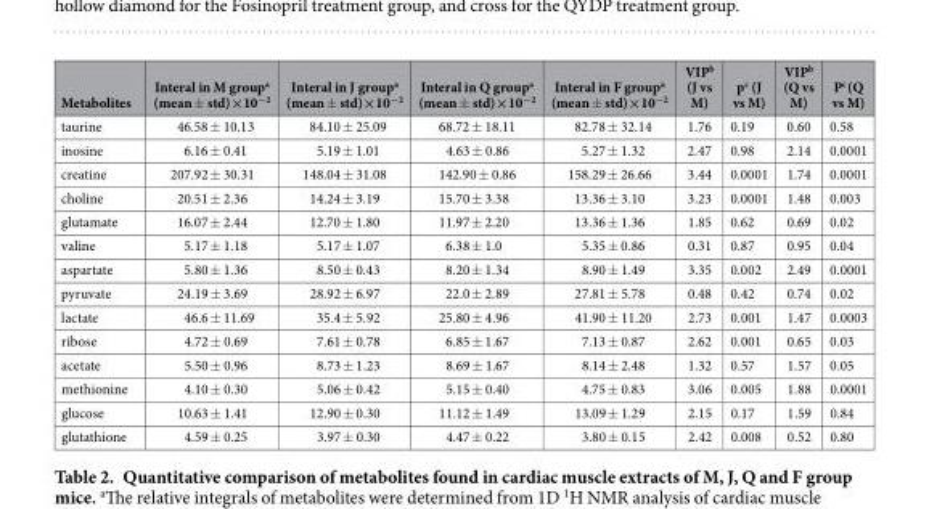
<table><thead><tr><td>Metabolites</td><td>Interal in M group<sup>a</sup> (mean ± std)×10<sup>−2</sup></td><td>Interal in J group<sup>a</sup> (mean ± std)×10<sup>−2</sup></td><td>Interal in Q group<sup>a</sup> (mean ± std)×10<sup>−2</sup></td><td>Interal in F group<sup>a</sup> (mean ± std)×10<sup>−2</sup></td><td>VIP<sup>b</sup> (J vs M)</td><td>p<sup>c</sup> (J vs M)</td><td>VIP<sup>b</sup> (Q vs M)</td><td>P<sup>c</sup> (Q vs M)</td></tr></thead><tbody><tr><td>taurine</td><td>46.58 ± 10.13</td><td>84.10 ± 25.09</td><td>68.72 ± 18.11</td><td>82.78 ± 32.14</td><td>1.76</td><td>0.19</td><td>0.60</td><td>0.58</td></tr><tr><td>inosine</td><td>6.16 ± 0.41</td><td>5.19 ± 1.01</td><td>4.63 ± 0.86</td><td>5.27 ± 1.32</td><td>2.47</td><td>0.98</td><td>2.14</td><td>0.0001</td></tr><tr><td>creatine</td><td>207.92 ± 30.31</td><td>148.04 ± 31.08</td><td>142.90 ± 0.86</td><td>158.29 ± 26.66</td><td>3.44</td><td>0.0001</td><td>1.74</td><td>0.0001</td></tr><tr><td>choline</td><td>20.51 ± 2.36</td><td>14.24 ± 3.19</td><td>15.70 ± 3.38</td><td>13.36 ± 3.10</td><td>3.23</td><td>0.0001</td><td>1.48</td><td>0.003</td></tr><tr><td>glutamate</td><td>16.07 ± 2.44</td><td>12.70 ± 1.80</td><td>11.97 ± 2.20</td><td>13.36 ± 1.36</td><td>1.85</td><td>0.62</td><td>0.69</td><td>0.02</td></tr><tr><td>valine</td><td>5.17 ± 1.18</td><td>5.17 ± 1.07</td><td>6.38 ± 1.0</td><td>5.35 ± 0.86</td><td>0.31</td><td>0.87</td><td>0.95</td><td>0.04</td></tr><tr><td>aspartate</td><td>5.80 ± 1.36</td><td>8.50 ± 0.43</td><td>8.20 ± 1.34</td><td>8.90 ± 1.49</td><td>3.35</td><td>0.002</td><td>2.49</td><td>0.0001</td></tr><tr><td>pyruvate</td><td>24.19 ± 3.69</td><td>28.92 ± 6.97</td><td>22.0 ± 2.89</td><td>27.81 ± 5.78</td><td>0.48</td><td>0.42</td><td>0.74</td><td>0.02</td></tr><tr><td>lactate</td><td>46.6 ± 11.69</td><td>35.4 ± 5.92</td><td>25.80 ± 4.96</td><td>41.90 ± 11.20</td><td>2.73</td><td>0.001</td><td>1.47</td><td>0.0003</td></tr><tr><td>ribose</td><td>4.72 ± 0.69</td><td>7.61 ± 0.78</td><td>6.85 ± 1.67</td><td>7.13 ± 0.87</td><td>2.62</td><td>0.001</td><td>0.65</td><td>0.03</td></tr><tr><td>acetate</td><td>5.50 ± 0.96</td><td>8.73 ± 1.23</td><td>8.69 ± 1.67</td><td>8.14 ± 2.48</td><td>1.32</td><td>0.57</td><td>1.57</td><td>0.05</td></tr><tr><td>methionine</td><td>4.10 ± 0.30</td><td>5.06 ± 0.42</td><td>5.15 ± 0.40</td><td>4.75 ± 0.83</td><td>3.06</td><td>0.005</td><td>1.88</td><td>0.0001</td></tr><tr><td>glucose</td><td>10.63 ± 1.41</td><td>12.90 ± 0.30</td><td>11.12 ± 1.49</td><td>13.09 ± 1.29</td><td>2.15</td><td>0.17</td><td>1.59</td><td>0.84</td></tr><tr><td>glutathione</td><td>4.59 ± 0.25</td><td>3.97 ± 0.30</td><td>4.47 ± 0.22</td><td>3.80 ± 0.15</td><td>2.42</td><td>0.008</td><td>0.52</td><td>0.80</td></tr></tbody></table>